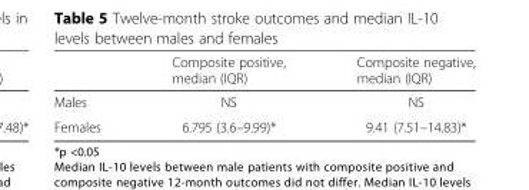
<table><thead><tr><td></td><td>Composite positive, median (IQR)</td><td>Composite negative, median (IQR)</td></tr></thead><tbody><tr><td>Males</td><td>NS</td><td>NS</td></tr><tr><td>Females</td><td>6.795 (3.6–9.99)*</td><td>9.41 (7.51–14.83)*</td></tr></tbody></table>